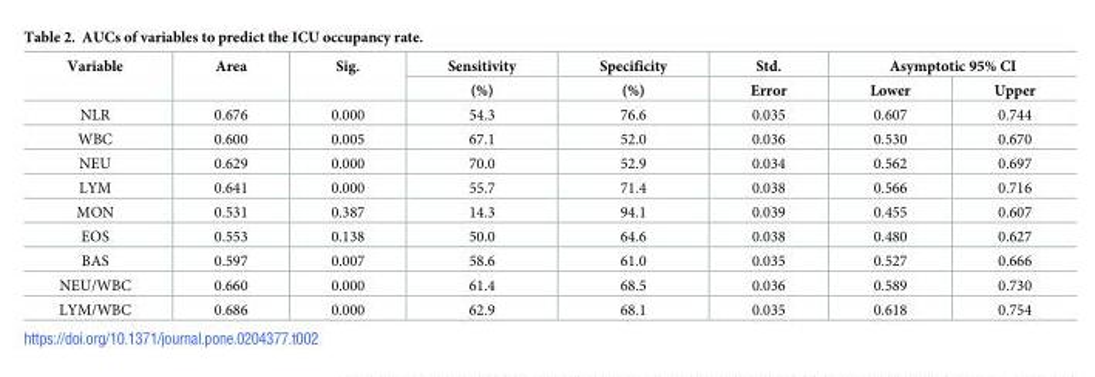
<table><thead><tr><td rowspan="2">Variable</td><td rowspan="2">Area</td><td rowspan="2">Sig.</td><td rowspan="2">Sensitivity (%)</td><td rowspan="2">Specificity (%)</td><td rowspan="2">Std. Error</td><td colspan="2">Asymptotic 95% CI</td></tr><tr><td>Lower</td><td>Upper</td></tr></thead><tbody><tr><td>NLR</td><td>0.676</td><td>0.000</td><td>54.3</td><td>76.6</td><td>0.035</td><td>0.607</td><td>0.744</td></tr><tr><td>WBC</td><td>0.600</td><td>0.005</td><td>67.1</td><td>52.0</td><td>0.036</td><td>0.530</td><td>0.670</td></tr><tr><td>NEU</td><td>0.629</td><td>0.000</td><td>70.0</td><td>52.9</td><td>0.034</td><td>0.562</td><td>0.697</td></tr><tr><td>LYM</td><td>0.641</td><td>0.000</td><td>55.7</td><td>71.4</td><td>0.038</td><td>0.566</td><td>0.716</td></tr><tr><td>MON</td><td>0.531</td><td>0.387</td><td>14.3</td><td>94.1</td><td>0.039</td><td>0.455</td><td>0.607</td></tr><tr><td>EOS</td><td>0.553</td><td>0.138</td><td>50.0</td><td>64.6</td><td>0.038</td><td>0.480</td><td>0.627</td></tr><tr><td>BAS</td><td>0.597</td><td>0.007</td><td>58.6</td><td>61.0</td><td>0.035</td><td>0.527</td><td>0.666</td></tr><tr><td>NEU/WBC</td><td>0.660</td><td>0.000</td><td>61.4</td><td>68.5</td><td>0.036</td><td>0.589</td><td>0.730</td></tr><tr><td>LYM/WBC</td><td>0.686</td><td>0.000</td><td>62.9</td><td>68.1</td><td>0.035</td><td>0.618</td><td>0.754</td></tr></tbody></table>